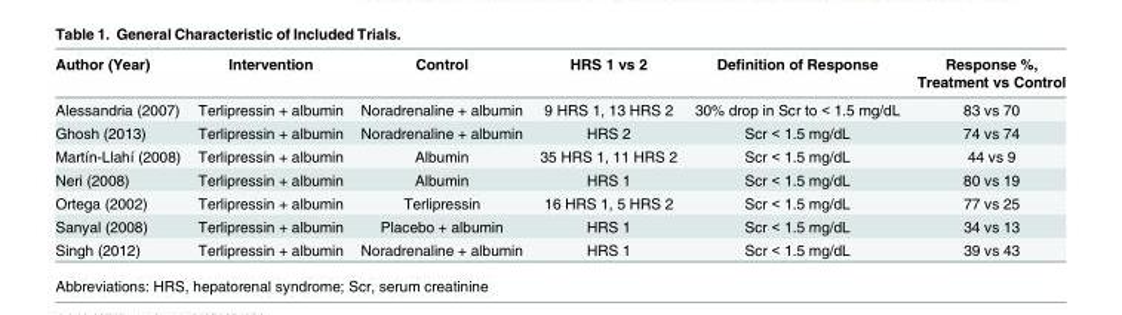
<table><thead><tr><td>Author (Year)</td><td>Intervention</td><td>Control</td><td>HRS 1 vs 2</td><td>Definition of Response</td><td>Response %, Treatment vs Control</td></tr></thead><tbody><tr><td>Alessandria (2007)</td><td>Terlipressin + albumin</td><td>Noradrenaline + albumin</td><td>9 HRS 1, 13 HRS 2</td><td>30% drop in Scr to &lt; 1.5 mg/dL</td><td>83 vs 70</td></tr><tr><td>Ghosh (2013)</td><td>Terlipressin + albumin</td><td>Noradrenaline + albumin</td><td>HRS 2</td><td>Scr &lt; 1.5 mg/dL</td><td>74 vs 74</td></tr><tr><td>Martín-Llahí (2008)</td><td>Terlipressin + albumin</td><td>Albumin</td><td>35 HRS 1, 11 HRS 2</td><td>Scr &lt; 1.5 mg/dL</td><td>44 vs 9</td></tr><tr><td>Neri (2008)</td><td>Terlipressin + albumin</td><td>Albumin</td><td>HRS 1</td><td>Scr &lt; 1.5 mg/dL</td><td>80 vs 19</td></tr><tr><td>Ortega (2002)</td><td>Terlipressin + albumin</td><td>Terlipressin</td><td>16 HRS 1, 5 HRS 2</td><td>Scr &lt; 1.5 mg/dL</td><td>77 vs 25</td></tr><tr><td>Sanyal (2008)</td><td>Terlipressin + albumin</td><td>Placebo + albumin</td><td>HRS 1</td><td>Scr &lt; 1.5 mg/dL</td><td>34 vs 13</td></tr><tr><td>Singh (2012)</td><td>Terlipressin + albumin</td><td>Noradrenaline + albumin</td><td>HRS 1</td><td>Scr &lt; 1.5 mg/dL</td><td>39 vs 43</td></tr></tbody></table>